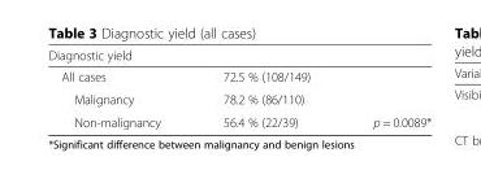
<table><thead><tr><td>Diagnostic yield</td><td></td><td></td></tr></thead><tbody><tr><td>All cases</td><td>72.5 % (108/149)</td><td></td></tr><tr><td>Malignancy</td><td>78.2 % (86/110)</td><td></td></tr><tr><td>Non-malignancy</td><td>56.4 % (22/39)</td><td>p = 0.0089*</td></tr></tbody></table>